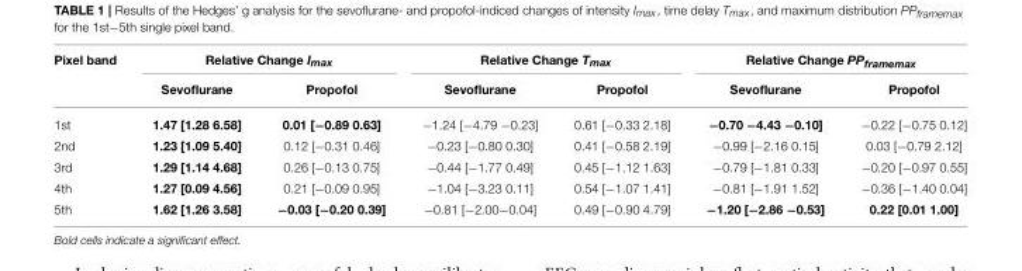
<table><thead><tr><td rowspan="2">Pixel band</td><td colspan="2">Relative Change I<sub>max</sub></td><td colspan="2">Relative Change T<sub>max</sub></td><td colspan="2">Relative Change PP<sub>framemax</sub></td></tr><tr><td>Sevoflurane</td><td>Propofol</td><td>Sevoflurane</td><td>Propofol</td><td>Sevoflurane</td><td>Propofol</td></tr></thead><tbody><tr><td>1st</td><td>1.47 [1.28 6.58]</td><td>0.01 [−0.89 0.63]</td><td>−1.24 [−4.79 −0.23]</td><td>0.61 [−0.33 2.18]</td><td>−0.70 −4.43 −0.10]</td><td>−0.22 [−0.75 0.12]</td></tr><tr><td>2nd</td><td>1.23 [1.09 5.40]</td><td>0.12 [−0.31 0.46]</td><td>−0.23 [−0.80 0.30]</td><td>0.41 [−0.58 2.19]</td><td>−0.99 [−2.16 0.15]</td><td>0.03 [−0.79 2.12]</td></tr><tr><td>3rd</td><td>1.29 [1.14 4.68]</td><td>0.26 [−0.13 0.75]</td><td>−0.44 [−1.77 0.49]</td><td>0.45 [−1.12 1.63]</td><td>−0.79 [−1.81 0.33]</td><td>−0.20 [−0.97 0.55]</td></tr><tr><td>4th</td><td>1.27 [0.09 4.56]</td><td>0.21 [−0.09 0.95]</td><td>−1.04 [−3.23 0.11]</td><td>0.54 [−1.07 1.41]</td><td>−0.81 [−1.91 1.52]</td><td>−0.36 [−1.40 0.04]</td></tr><tr><td>5th</td><td>1.62 [1.26 3.58]</td><td>−0.03 [−0.20 0.39]</td><td>−0.81 [−2.00−0.04]</td><td>0.49 [−0.90 4.79]</td><td>−1.20 [−2.86 −0.53]</td><td>0.22 [0.01 1.00]</td></tr></tbody></table>